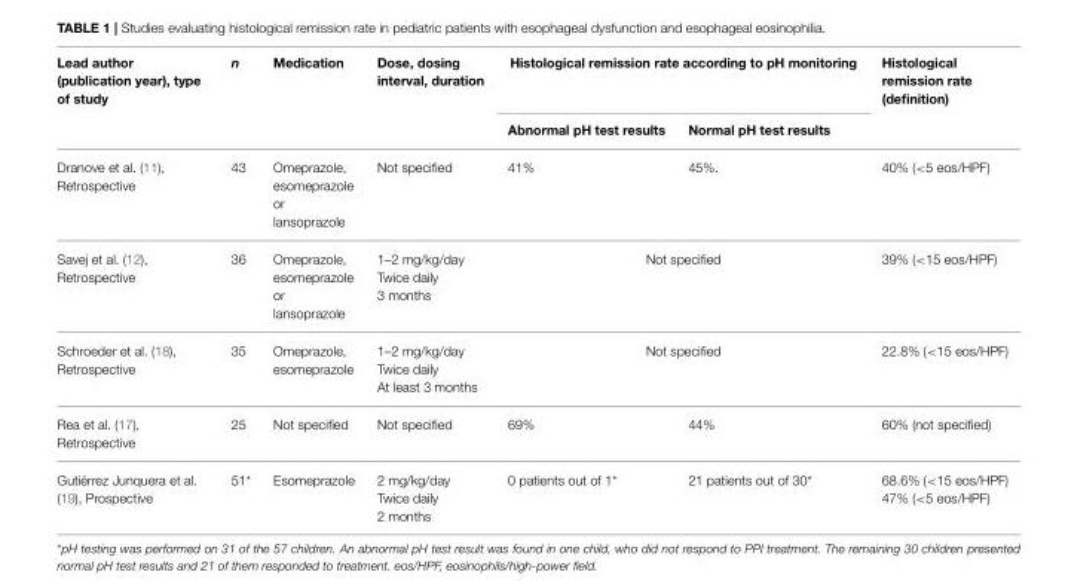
<table><thead><tr><td rowspan="2">Lead author (publication year), type of study</td><td rowspan="2">n</td><td rowspan="2">Medication</td><td rowspan="2">Dose, dosing interval, duration</td><td colspan="2">Histological remission rate according to pH monitoring</td><td rowspan="2">Histological remission rate (definition)</td></tr><tr><td>Abnormal pH test results</td><td>Normal pH test results</td></tr></thead><tbody><tr><td>Dranove et al. (11), Retrospective</td><td>43</td><td>Omeprazole, esomeprazole or lansoprazole</td><td>Not specified</td><td>41%</td><td>45%.</td><td>40% (&lt;5 eos/HPF)</td></tr><tr><td>Savej et al. (12), Retrospective</td><td>36</td><td>Omeprazole, esomeprazole or lansoprazole</td><td>1–2 mg/kg/day Twice daily 3 months</td><td colspan="2">Not specified</td><td>39% (&lt;15 eos/HPF)</td></tr><tr><td>Schroeder et al. (18), Retrospective</td><td>35</td><td>Omeprazole, esomeprazole</td><td>1–2 mg/kg/day Twice daily At least 3 months</td><td colspan="2">Not specified</td><td>22.8% (&lt;15 eos/HPF)</td></tr><tr><td>Rea et al. (17), Retrospective</td><td>25</td><td>Not specified</td><td>Not specified</td><td>69%</td><td>44%</td><td>60% (not specified)</td></tr><tr><td>Gutiérrez Junquera et al. (19), Prospective</td><td>51*</td><td>Esomeprazole</td><td>2 mg/kg/day Twice daily 2 months</td><td>0 patients out of 1*</td><td>21 patients out of 30*</td><td>68.6% (&lt;15 eos/HPF) 47% (&lt;5 eos/HPF)</td></tr></tbody></table>